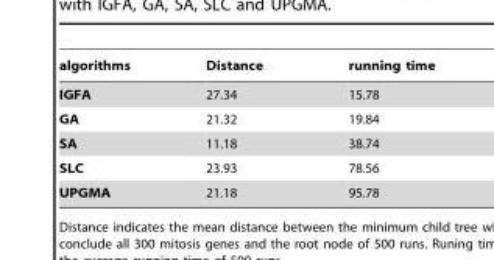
<table><thead><tr><td>algorithms</td><td>Distance</td><td>running time</td></tr></thead><tbody><tr><td>IGFA</td><td>27.34</td><td>15.78</td></tr><tr><td>GA</td><td>21.32</td><td>19.84</td></tr><tr><td>SA</td><td>11.18</td><td>38.74</td></tr><tr><td>SLC</td><td>23.93</td><td>78.56</td></tr><tr><td>UPGMA</td><td>21.18</td><td>95.78</td></tr></tbody></table>